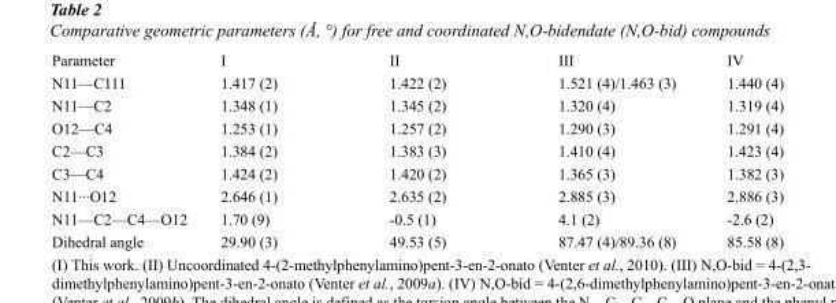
<table><tbody><tr><td>Parameter</td><td>I</td><td>II</td><td>III</td><td>IV</td></tr><tr><td>N11—C111</td><td>1.417 (2)</td><td>1.422 (2)</td><td>1.521 (4)/1.463 (3)</td><td>1.440 (4)</td></tr><tr><td>N11—C2</td><td>1.348 (1)</td><td>1.345 (2)</td><td>1.320 (4)</td><td>1.319 (4)</td></tr><tr><td>O12—C4</td><td>1.253 (1)</td><td>1.257 (2)</td><td>1.290 (3)</td><td>1.291 (4)</td></tr><tr><td>C2—C3</td><td>1.384 (2)</td><td>1.383 (3)</td><td>1.410 (4)</td><td>1.423 (4)</td></tr><tr><td>C3—C4</td><td>1.424 (2)</td><td>1.420 (2)</td><td>1.365 (3)</td><td>1.382 (3)</td></tr><tr><td>N11···O12</td><td>2.646 (1)</td><td>2.635 (2)</td><td>2.885 (3)</td><td>2.886 (3)</td></tr><tr><td>N11—C2—C4—O12</td><td>1.70 (9)</td><td>-0.5 (1)</td><td>4.1 (2)</td><td>-2.6 (2)</td></tr><tr><td>Dihedral angle</td><td>29.90 (3)</td><td>49.53 (5)</td><td>87.47 (4)/89.36 (8)</td><td>85.58 (8)</td></tr></tbody></table>